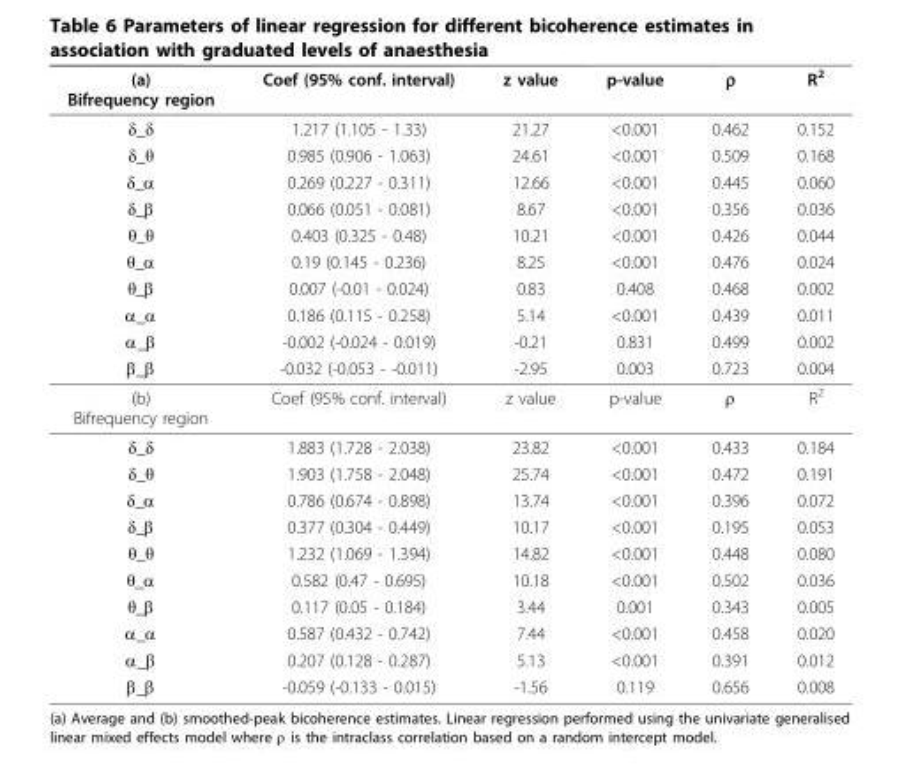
<table><thead><tr><td>(a) Bifrequency region</td><td>Coef (95% conf. interval)</td><td>z value</td><td>p-value</td><td>ρ</td><td>R<sup>2</sup></td></tr></thead><tbody><tr><td>δ_δ</td><td>1.217 (1.105 - 1.33)</td><td>21.27</td><td>&lt;0.001</td><td>0.462</td><td>0.152</td></tr><tr><td>δ_θ</td><td>0.985 (0.906 - 1.063)</td><td>24.61</td><td>&lt;0.001</td><td>0.509</td><td>0.168</td></tr><tr><td>δ_α</td><td>0.269 (0.227 - 0.311)</td><td>12.66</td><td>&lt;0.001</td><td>0.445</td><td>0.060</td></tr><tr><td>δ_β</td><td>0.066 (0.051 - 0.081)</td><td>8.67</td><td>&lt;0.001</td><td>0.356</td><td>0.036</td></tr><tr><td>θ_θ</td><td>0.403 (0.325 - 0.48)</td><td>10.21</td><td>&lt;0.001</td><td>0.426</td><td>0.044</td></tr><tr><td>θ_α</td><td>0.19 (0.145 - 0.236)</td><td>8.25</td><td>&lt;0.001</td><td>0.476</td><td>0.024</td></tr><tr><td>θ_β</td><td>0.007 (-0.01 - 0.024)</td><td>0.83</td><td>0.408</td><td>0.468</td><td>0.002</td></tr><tr><td>α_α</td><td>0.186 (0.115 - 0.258)</td><td>5.14</td><td>&lt;0.001</td><td>0.439</td><td>0.011</td></tr><tr><td>α_β</td><td>-0.002 (-0.024 - 0.019)</td><td>-0.21</td><td>0.831</td><td>0.499</td><td>0.002</td></tr><tr><td>β_β</td><td>-0.032 (-0.053 - -0.011)</td><td>-2.95</td><td>0.003</td><td>0.723</td><td>0.004</td></tr><tr><td>(b) Bifrequency region</td><td>Coef (95% conf. interval)</td><td>z value</td><td>p-value</td><td>ρ</td><td>R<sup>2</sup></td></tr><tr><td>δ_δ</td><td>1.883 (1.728 - 2.038)</td><td>23.82</td><td>&lt;0.001</td><td>0.433</td><td>0.184</td></tr><tr><td>δ_θ</td><td>1.903 (1.758 - 2.048)</td><td>25.74</td><td>&lt;0.001</td><td>0.472</td><td>0.191</td></tr><tr><td>δ_α</td><td>0.786 (0.674 - 0.898)</td><td>13.74</td><td>&lt;0.001</td><td>0.396</td><td>0.072</td></tr><tr><td>δ_β</td><td>0.377 (0.304 - 0.449)</td><td>10.17</td><td>&lt;0.001</td><td>0.195</td><td>0.053</td></tr><tr><td>θ_θ</td><td>1.232 (1.069 - 1.394)</td><td>14.82</td><td>&lt;0.001</td><td>0.448</td><td>0.080</td></tr><tr><td>θ_α</td><td>0.582 (0.47 - 0.695)</td><td>10.18</td><td>&lt;0.001</td><td>0.502</td><td>0.036</td></tr><tr><td>θ_β</td><td>0.117 (0.05 - 0.184)</td><td>3.44</td><td>0.001</td><td>0.343</td><td>0.005</td></tr><tr><td>α_α</td><td>0.587 (0.432 - 0.742)</td><td>7.44</td><td>&lt;0.001</td><td>0.458</td><td>0.020</td></tr><tr><td>α_β</td><td>0.207 (0.128 - 0.287)</td><td>5.13</td><td>&lt;0.001</td><td>0.391</td><td>0.012</td></tr><tr><td>β_β</td><td>-0.059 (-0.133 - 0.015)</td><td>-1.56</td><td>0.119</td><td>0.656</td><td>0.008</td></tr></tbody></table>